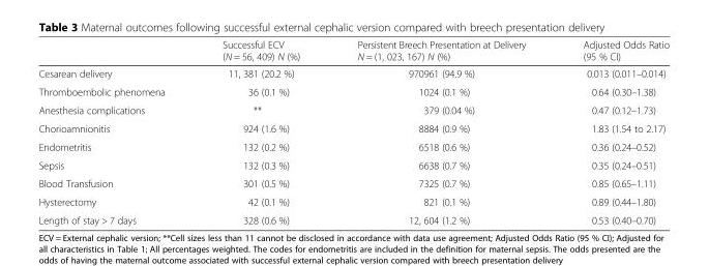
<table><thead><tr><td></td><td>Successful ECV (N = 56, 409) N (%)</td><td>Persistent Breech Presentation at Delivery N = (1, 023, 167) N (%)</td><td>Adjusted Odds Ratio (95 % CI)</td></tr></thead><tbody><tr><td>Cesarean delivery</td><td>11, 381 (20.2 %)</td><td>970961 (94.9 %)</td><td>0.013 (0.011–0.014)</td></tr><tr><td>Thromboembolic phenomena</td><td>36 (0.1 %)</td><td>1024 (0.1 %)</td><td>0.64 (0.30–1.38)</td></tr><tr><td>Anesthesia complications</td><td>**</td><td>379 (0.04 %)</td><td>0.47 (0.12–1.73)</td></tr><tr><td>Chorioamnionitis</td><td>924 (1.6 %)</td><td>8884 (0.9 %)</td><td>1.83 (1.54 to 2.17)</td></tr><tr><td>Endometritis</td><td>132 (0.2 %)</td><td>6518 (0.6 %)</td><td>0.36 (0.24–0.52)</td></tr><tr><td>Sepsis</td><td>132 (0.3 %)</td><td>6638 (0.7 %)</td><td>0.35 (0.24–0.51)</td></tr><tr><td>Blood Transfusion</td><td>301 (0.5 %)</td><td>7325 (0.7 %)</td><td>0.85 (0.65–1.11)</td></tr><tr><td>Hysterectomy</td><td>42 (0.1 %)</td><td>821 (0.1 %)</td><td>0.89 (0.44–1.80)</td></tr><tr><td>Length of stay &gt; 7 days</td><td>328 (0.6 %)</td><td>12, 604 (1.2 %)</td><td>0.53 (0.40–0.70)</td></tr></tbody></table>